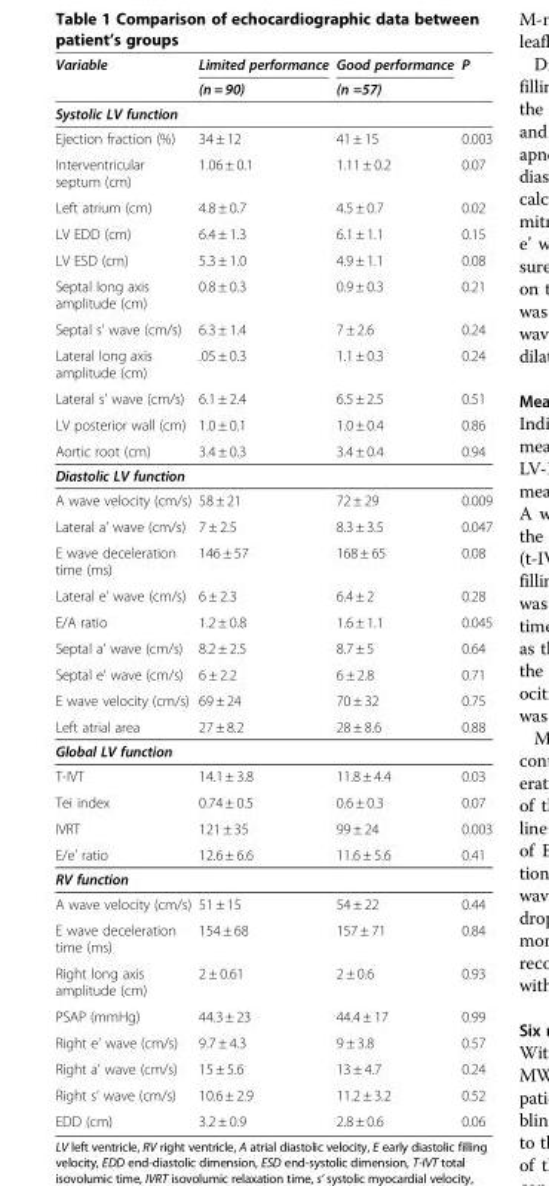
<table><thead><tr><td rowspan="2">Variable</td><td rowspan="2">Limited performance (n = 90)</td><td rowspan="2">Good performance (n =57)</td><td rowspan="2">P</td></tr><tr></tr></thead><tbody><tr><td colspan="4">Systolic LV function</td></tr><tr><td>Ejection fraction (%)</td><td>34 ± 12</td><td>41 ± 15</td><td>0.003</td></tr><tr><td>Interventricular septum (cm)</td><td>1.06 ± 0.1</td><td>1.11 ± 0.2</td><td>0.07</td></tr><tr><td>Left atrium (cm)</td><td>4.8 ± 0.7</td><td>4.5 ± 0.7</td><td>0.02</td></tr><tr><td>LV EDD (cm)</td><td>6.4 ± 1.3</td><td>6.1 ± 1.1</td><td>0.15</td></tr><tr><td>LV ESD (cm)</td><td>5.3 ± 1.0</td><td>4.9 ± 1.1</td><td>0.08</td></tr><tr><td>Septal long axis amplitude (cm)</td><td>0.8 ± 0.3</td><td>0.9 ± 0.3</td><td>0.21</td></tr><tr><td>Septal s’ wave (cm/s)</td><td>6.3 ± 1.4</td><td>7 ± 2.6</td><td>0.24</td></tr><tr><td>Lateral long axis amplitude (cm)</td><td>.05 ± 0.3</td><td>1.1 ± 0.3</td><td>0.24</td></tr><tr><td>Lateral s’ wave (cm/s)</td><td>6.1 ± 2.4</td><td>6.5 ± 2.5</td><td>0.51</td></tr><tr><td>LV posterior wall (cm)</td><td>1.0 ± 0.1</td><td>1.0 ± 0.4</td><td>0.86</td></tr><tr><td>Aortic root (cm)</td><td>3.4 ± 0.3</td><td>3.4 ± 0.4</td><td>0.94</td></tr><tr><td colspan="4">Diastolic LV function</td></tr><tr><td>A wave velocity (cm/s)</td><td>58 ± 21</td><td>72 ± 29</td><td>0.009</td></tr><tr><td>Lateral a’ wave (cm/s)</td><td>7 ± 2.5</td><td>8.3 ± 3.5</td><td>0.047</td></tr><tr><td>E wave deceleration time (ms)</td><td>146 ± 57</td><td>168 ± 65</td><td>0.08</td></tr><tr><td>Lateral e’ wave (cm/s)</td><td>6 ± 2.3</td><td>6.4 ± 2</td><td>0.28</td></tr><tr><td>E/A ratio</td><td>1.2 ± 0.8</td><td>1.6 ± 1.1</td><td>0.045</td></tr><tr><td>Septal a’ wave (cm/s)</td><td>8.2 ± 2.5</td><td>8.7 ± 5</td><td>0.64</td></tr><tr><td>Septal e’ wave (cm/s)</td><td>6 ± 2.2</td><td>6 ± 2.8</td><td>0.71</td></tr><tr><td>E wave velocity (cm/s)</td><td>69 ± 24</td><td>70 ± 32</td><td>0.75</td></tr><tr><td>Left atrial area</td><td>27 ± 8.2</td><td>28 ± 8.6</td><td>0.88</td></tr><tr><td colspan="4">Global LV function</td></tr><tr><td>T-IVT</td><td>14.1 ± 3.8</td><td>11.8 ± 4.4</td><td>0.03</td></tr><tr><td>Tei index</td><td>0.74 ± 0.5</td><td>0.6 ± 0.3</td><td>0.07</td></tr><tr><td>IVRT</td><td>121 ± 35</td><td>99 ± 24</td><td>0.003</td></tr><tr><td>E/e’ ratio</td><td>12.6 ± 6.6</td><td>11.6 ± 5.6</td><td>0.41</td></tr><tr><td colspan="4">RV function</td></tr><tr><td>A wave velocity (cm/s)</td><td>51 ± 15</td><td>54 ± 22</td><td>0.44</td></tr><tr><td>E wave deceleration time (ms)</td><td>154 ± 68</td><td>157 ± 71</td><td>0.84</td></tr><tr><td>Right long axis amplitude (cm)</td><td>2 ± 0.61</td><td>2 ± 0.6</td><td>0.93</td></tr><tr><td>PSAP (mmHg)</td><td>44.3 ± 23</td><td>44.4 ± 17</td><td>0.99</td></tr><tr><td>Right e’ wave (cm/s)</td><td>9.7 ± 4.3</td><td>9 ± 3.8</td><td>0.57</td></tr><tr><td>Right a’ wave (cm/s)</td><td>15 ± 5.6</td><td>13 ± 4.7</td><td>0.24</td></tr><tr><td>Right s’ wave (cm/s)</td><td>10.6 ± 2.9</td><td>11.2 ± 3.2</td><td>0.52</td></tr><tr><td>EDD (cm)</td><td>3.2 ± 0.9</td><td>2.8 ± 0.6</td><td>0.06</td></tr></tbody></table>